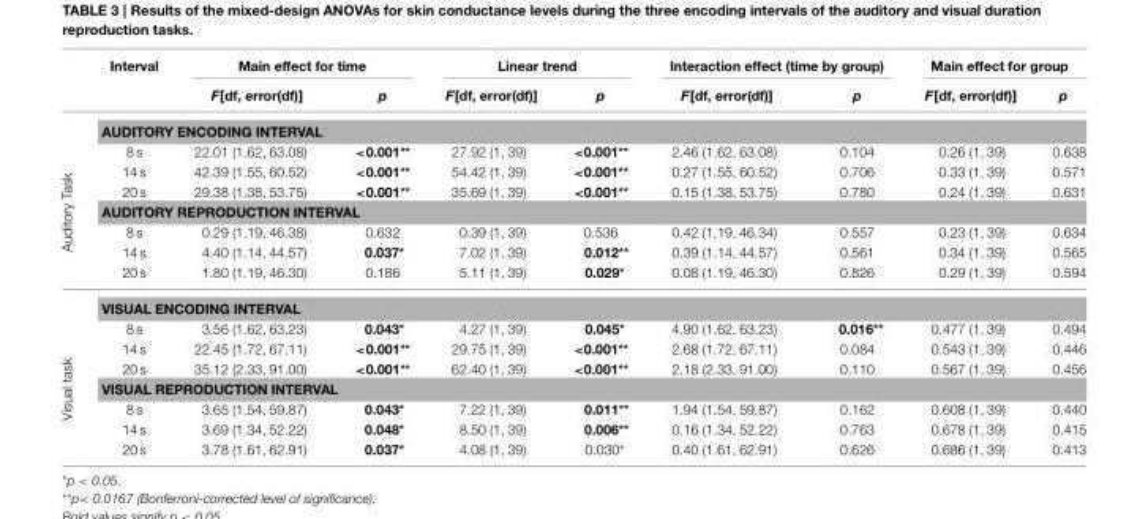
<table><thead><tr><td rowspan="2"></td><td rowspan="2">Interval</td><td colspan="2">Main effect for time</td><td colspan="2">Linear trend</td><td colspan="2">Interaction effect (time by group)</td><td colspan="2">Main effect for group</td></tr><tr><td>F[df, error(df)]</td><td>p</td><td>F[df, error(df)]</td><td>p</td><td>F[df, error(df)]</td><td>p</td><td>F[df, error(df)]</td><td>p</td></tr></thead><tbody><tr><td rowspan="8">Auditory Task</td><td colspan="9">AUDITORY ENCODING INTERVAL</td></tr><tr><td>8 s</td><td>22.01 (1.62, 63.08)</td><td>&lt;0.001**</td><td>27.92 (1, 39)</td><td>&lt;0.001**</td><td>2.46 (1.62, 63.08)</td><td>0.104</td><td>0.26 (1, 39)</td><td>0.638</td></tr><tr><td>14 s</td><td>42.39 (1.55, 60.52)</td><td>&lt;0.001**</td><td>54.42 (1, 39)</td><td>&lt;0.001**</td><td>0.27 (1.55, 60.52)</td><td>0.706</td><td>0.33 (1, 39)</td><td>0.571</td></tr><tr><td>20 s</td><td>29.38 (1.38, 53.75)</td><td>&lt;0.001**</td><td>35.69 (1, 39)</td><td>&lt;0.001**</td><td>0.15 (1.38, 53.75)</td><td>0.780</td><td>0.24 (1, 39)</td><td>0.631</td></tr><tr><td colspan="9">AUDITORY REPRODUCTION INTERVAL</td></tr><tr><td>8 s</td><td>0.29 (1.19, 46.38)</td><td>0.632</td><td>0.39 (1, 39)</td><td>0.536</td><td>0.42 (1.19, 46.34)</td><td>0.557</td><td>0.23 (1, 39)</td><td>0.634</td></tr><tr><td>14 s</td><td>4.40 (1.14, 44.57)</td><td>0.037*</td><td>7.02 (1, 39)</td><td>0.012**</td><td>0.39 (1.14, 44.57)</td><td>0.561</td><td>0.34 (1, 39)</td><td>0.565</td></tr><tr><td>20 s</td><td>1.80 (1.19, 46.30)</td><td>0.186</td><td>5.11 (1, 39)</td><td>0.029*</td><td>0.08 (1.19, 46.30)</td><td>0.826</td><td>0.29 (1, 39)</td><td>0.594</td></tr><tr><td rowspan="8">Visual task</td><td colspan="9">VISUAL ENCODING INTERVAL</td></tr><tr><td>8 s</td><td>3.56 (1.62, 63.23)</td><td>0.043*</td><td>4.27 (1, 39)</td><td>0.045*</td><td>4.90 (1.62, 63.23)</td><td>0.016**</td><td>0.477 (1, 39)</td><td>0.494</td></tr><tr><td>14 s</td><td>22.45 (1.72, 67.11)</td><td>&lt;0.001**</td><td>29.75 (1, 39)</td><td>&lt;0.001**</td><td>2.68 (1.72, 67.11)</td><td>0.084</td><td>0.543 (1, 39)</td><td>0.446</td></tr><tr><td>20 s</td><td>35.12 (2.33, 91.00)</td><td>&lt;0.001**</td><td>62.40 (1, 39)</td><td>&lt;0.001**</td><td>2.18 (2.33, 91.00)</td><td>0.110</td><td>0.567 (1, 39)</td><td>0.456</td></tr><tr><td colspan="9">VISUAL REPRODUCTION INTERVAL</td></tr><tr><td>8 s</td><td>3.65 (1.54, 59.87)</td><td>0.043*</td><td>7.22 (1, 39)</td><td>0.011**</td><td>1.94 (1.54, 59.87)</td><td>0.162</td><td>0.608 (1, 39)</td><td>0.440</td></tr><tr><td>14 s</td><td>3.69 (1.34, 52.22)</td><td>0.048*</td><td>8.50 (1, 39)</td><td>0.006**</td><td>0.16 (1.34, 52.22)</td><td>0.763</td><td>0.678 (1, 39)</td><td>0.415</td></tr><tr><td>20 s</td><td>3.78 (1.61, 62.91)</td><td>0.037*</td><td>4.08 (1, 39)</td><td>0.030*</td><td>0.40 (1.61, 62.91)</td><td>0.626</td><td>0.686 (1, 39)</td><td>0.413</td></tr></tbody></table>